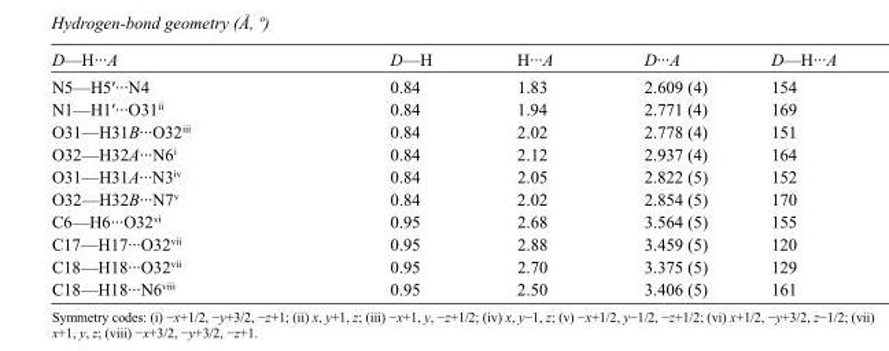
<table><tbody><tr><td>D—H···A</td><td>D—H</td><td>H···A</td><td>D···A</td><td>D—H···A</td></tr><tr><td>N5—H5′···N4</td><td>0.84</td><td>1.83</td><td>2.609 (4)</td><td>154</td></tr><tr><td>N1—H1′···O31<sup>ii</sup></td><td>0.84</td><td>1.94</td><td>2.771 (4)</td><td>169</td></tr><tr><td>O31—H31B···O32<sup>iii</sup></td><td>0.84</td><td>2.02</td><td>2.778 (4)</td><td>151</td></tr><tr><td>O32—H32A···N6<sup>i</sup></td><td>0.84</td><td>2.12</td><td>2.937 (4)</td><td>164</td></tr><tr><td>O31—H31A···N3<sup>iv</sup></td><td>0.84</td><td>2.05</td><td>2.822 (5)</td><td>152</td></tr><tr><td>O32—H32B···N7<sup>v</sup></td><td>0.84</td><td>2.02</td><td>2.854 (5)</td><td>170</td></tr><tr><td>C6—H6···O32<sup>vi</sup></td><td>0.95</td><td>2.68</td><td>3.564 (5)</td><td>155</td></tr><tr><td>C17—H17···O32<sup>vii</sup></td><td>0.95</td><td>2.88</td><td>3.459 (5)</td><td>120</td></tr><tr><td>C18—H18···O32<sup>vii</sup></td><td>0.95</td><td>2.70</td><td>3.375 (5)</td><td>129</td></tr><tr><td>C18—H18···N6<sup>viii</sup></td><td>0.95</td><td>2.50</td><td>3.406 (5)</td><td>161</td></tr></tbody></table>